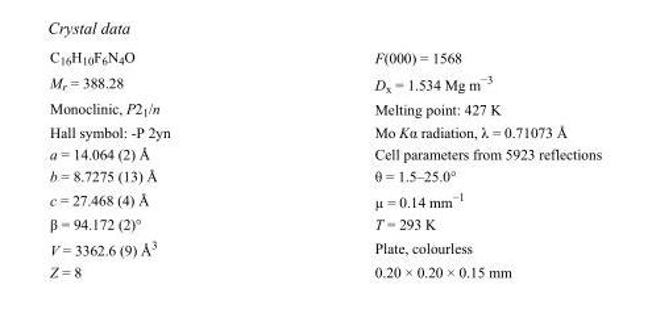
<table><tbody><tr><td>C<sub>16</sub>H<sub>10</sub>F<sub>6</sub>N<sub>4</sub>O</td><td>F(000) = 1568</td></tr><tr><td>M<sub>r</sub> = 388.28</td><td>D<sub>x</sub> = 1.534 Mg m<sup>−3</sup></td></tr><tr><td>Monoclinic, P2<sub>1</sub>/n</td><td>Melting point: 427 K</td></tr><tr><td>Hall symbol: -P 2yn</td><td>Mo Kα radiation, λ = 0.71073 Å</td></tr><tr><td>a = 14.064 (2) Å</td><td>Cell parameters from 5923 reflections</td></tr><tr><td>b = 8.7275 (13) Å</td><td>θ = 1.5–25.0°</td></tr><tr><td>c = 27.468 (4) Å</td><td>µ = 0.14 mm<sup>−1</sup></td></tr><tr><td>β = 94.172 (2)°</td><td>T = 293 K</td></tr><tr><td>V = 3362.6 (9) Å<sup>3</sup></td><td>Plate, colourless</td></tr><tr><td>Z = 8</td><td>0.20 × 0.20 × 0.15 mm</td></tr></tbody></table>